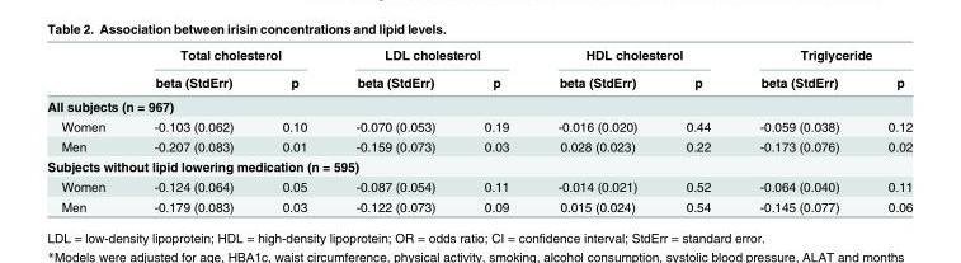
<table><thead><tr><td rowspan="2"></td><td colspan="2">Total cholesterol</td><td colspan="2">LDL cholesterol</td><td colspan="2">HDL cholesterol</td><td colspan="2">Triglyceride</td></tr><tr><td>beta (StdErr)</td><td>p</td><td>beta (StdErr)</td><td>p</td><td>beta (StdErr)</td><td>p</td><td>beta (StdErr)</td><td>p</td></tr></thead><tbody><tr><td colspan="9">All subjects (n = 967)</td></tr><tr><td>Women</td><td>-0.103 (0.062)</td><td>0.10</td><td>-0.070 (0.053)</td><td>0.19</td><td>-0.016 (0.020)</td><td>0.44</td><td>-0.059 (0.038)</td><td>0.12</td></tr><tr><td>Men</td><td>-0.207 (0.083)</td><td>0.01</td><td>-0.159 (0.073)</td><td>0.03</td><td>0.028 (0.023)</td><td>0.22</td><td>-0.173 (0.076)</td><td>0.02</td></tr><tr><td colspan="9">Subjects without lipid lowering medication (n = 595)</td></tr><tr><td>Women</td><td>-0.124 (0.064)</td><td>0.05</td><td>-0.087 (0.054)</td><td>0.11</td><td>-0.014 (0.021)</td><td>0.52</td><td>-0.064 (0.040)</td><td>0.11</td></tr><tr><td>Men</td><td>-0.179 (0.083)</td><td>0.03</td><td>-0.122 (0.073)</td><td>0.09</td><td>0.015 (0.024)</td><td>0.54</td><td>-0.145 (0.077)</td><td>0.06</td></tr></tbody></table>